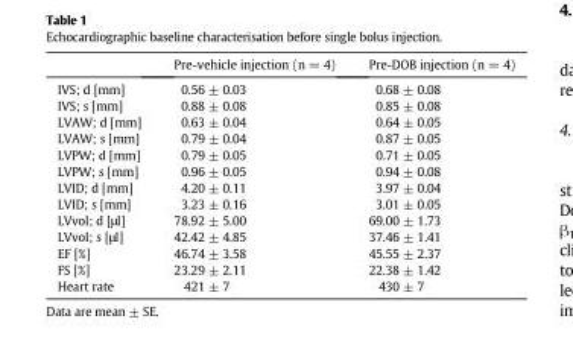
<table><thead><tr><td></td><td>Pre-vehicle injection (n = 4)</td><td>Pre-DOB injection (n = 4)</td></tr></thead><tbody><tr><td>IVS; d [mm]</td><td>0.56 ± 0.03</td><td>0.68 ± 0.08</td></tr><tr><td>IVS; s [mm]</td><td>0.88 ± 0.08</td><td>0.85 ± 0.08</td></tr><tr><td>LVAW; d [mm]</td><td>0.63 ± 0.04</td><td>0.64 ± 0.05</td></tr><tr><td>LVAW; s [mm]</td><td>0.79 ± 0.04</td><td>0.87 ± 0.05</td></tr><tr><td>LVPW; d [mm]</td><td>0.79 ± 0.05</td><td>0.71 ± 0.05</td></tr><tr><td>LVPW; s [mm]</td><td>0.96 ± 0.05</td><td>0.94 ± 0.08</td></tr><tr><td>LVID; d [mm]</td><td>4.20 ± 0.11</td><td>3.97 ± 0.04</td></tr><tr><td>LVID; s [mm]</td><td>3.23 ± 0.16</td><td>3.01 ± 0.05</td></tr><tr><td>LVvol; d [μl]</td><td>78.92 ± 5.00</td><td>69.00 ± 1.73</td></tr><tr><td>LVvol; s [μl]</td><td>42.42 ± 4.85</td><td>37.46 ± 1.41</td></tr><tr><td>EF [%]</td><td>46.74 ± 3.58</td><td>45.55 ± 2.37</td></tr><tr><td>FS [%]</td><td>23.29 ± 2.11</td><td>22.38 ± 1.42</td></tr><tr><td>Heart rate</td><td>421 ± 7</td><td>430 ± 7</td></tr></tbody></table>